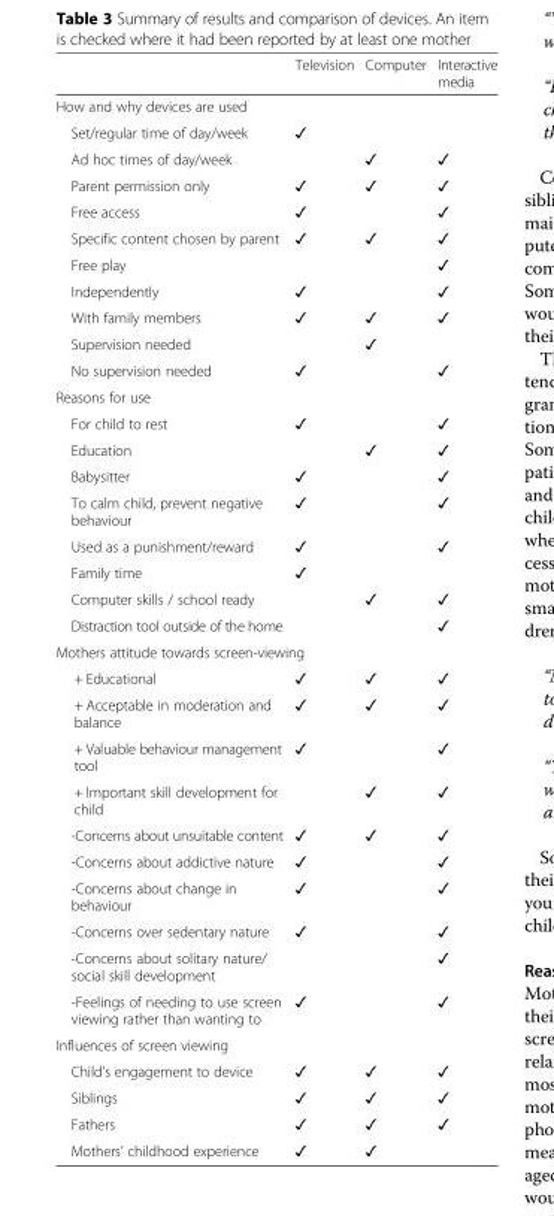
<table><thead><tr><td></td><td>Television</td><td>Computer</td><td>Interactive media</td></tr></thead><tbody><tr><td colspan="4">How and why devices are used</td></tr><tr><td>Set/regular time of day/week</td><td>✓</td><td></td><td></td></tr><tr><td>Ad hoc times of day/week</td><td></td><td>✓</td><td>✓</td></tr><tr><td>Parent permission only</td><td>✓</td><td>✓</td><td>✓</td></tr><tr><td>Free access</td><td>✓</td><td></td><td>✓</td></tr><tr><td>Specific content chosen by parent</td><td>✓</td><td>✓</td><td>✓</td></tr><tr><td>Free play</td><td></td><td></td><td>✓</td></tr><tr><td>Independently</td><td>✓</td><td></td><td>✓</td></tr><tr><td>With family members</td><td>✓</td><td>✓</td><td>✓</td></tr><tr><td>Supervision needed</td><td></td><td>✓</td><td></td></tr><tr><td>No supervision needed</td><td>✓</td><td></td><td>✓</td></tr><tr><td colspan="4">Reasons for use</td></tr><tr><td>For child to rest</td><td>✓</td><td></td><td>✓</td></tr><tr><td>Education</td><td></td><td>✓</td><td>✓</td></tr><tr><td>Babysitter</td><td>✓</td><td></td><td>✓</td></tr><tr><td>To calm child, prevent negative behaviour</td><td>✓</td><td></td><td>✓</td></tr><tr><td>Used as a punishment/reward</td><td>✓</td><td></td><td>✓</td></tr><tr><td>Family time</td><td>✓</td><td></td><td></td></tr><tr><td>Computer skills / school ready</td><td></td><td>✓</td><td>✓</td></tr><tr><td>Distraction tool outside of the home</td><td></td><td></td><td>✓</td></tr><tr><td colspan="4">Mothers attitude towards screen-viewing</td></tr><tr><td>+ Educational</td><td>✓</td><td>✓</td><td>✓</td></tr><tr><td>+ Acceptable in moderation and balance</td><td>✓</td><td>✓</td><td>✓</td></tr><tr><td>+ Valuable behaviour management tool</td><td>✓</td><td></td><td>✓</td></tr><tr><td>+ Important skill development for child</td><td></td><td>✓</td><td>✓</td></tr><tr><td>-Concerns about unsuitable content</td><td>✓</td><td>✓</td><td>✓</td></tr><tr><td>-Concerns about addictive nature</td><td>✓</td><td></td><td>✓</td></tr><tr><td>-Concerns about change in behaviour</td><td>✓</td><td></td><td>✓</td></tr><tr><td>-Concerns over sedentary nature</td><td>✓</td><td></td><td>✓</td></tr><tr><td>-Concerns about solitary nature/ social skill development</td><td></td><td></td><td>✓</td></tr><tr><td>-Feelings of needing to use screen viewing rather than wanting to</td><td>✓</td><td></td><td>✓</td></tr><tr><td colspan="4">Influences of screen viewing</td></tr><tr><td>Child’s engagement to device</td><td>✓</td><td>✓</td><td>✓</td></tr><tr><td>Siblings</td><td>✓</td><td>✓</td><td>✓</td></tr><tr><td>Fathers</td><td>✓</td><td>✓</td><td>✓</td></tr><tr><td>Mothers’ childhood experience</td><td>✓</td><td>✓</td><td></td></tr></tbody></table>